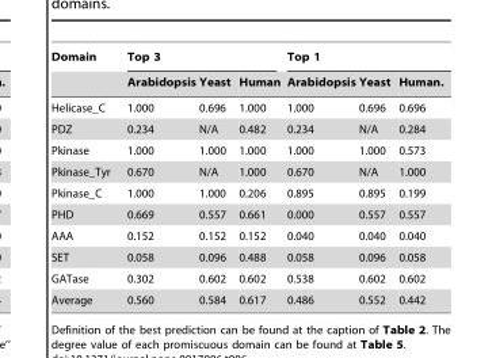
<table><thead><tr><td rowspan="2">Domain</td><td colspan="3">Top 3</td><td colspan="3">Top 1</td></tr><tr><td>Arabidopsis</td><td>Yeast</td><td>Human</td><td>Arabidopsis</td><td>Yeast</td><td>Human.</td></tr></thead><tbody><tr><td>Helicase_C</td><td>1.000</td><td>0.696</td><td>1.000</td><td>1.000</td><td>0.696</td><td>0.696</td></tr><tr><td>PDZ</td><td>0.234</td><td>N/A</td><td>0.482</td><td>0.234</td><td>N/A</td><td>0.284</td></tr><tr><td>Pkinase</td><td>1.000</td><td>1.000</td><td>1.000</td><td>1.000</td><td>1.000</td><td>0.573</td></tr><tr><td>Pkinase_Tyr</td><td>0.670</td><td>N/A</td><td>1.000</td><td>0.670</td><td>N/A</td><td>1.000</td></tr><tr><td>Pkinase_C</td><td>1.000</td><td>1.000</td><td>0.206</td><td>0.895</td><td>0.895</td><td>0.199</td></tr><tr><td>PHD</td><td>0.669</td><td>0.557</td><td>0.661</td><td>0.000</td><td>0.557</td><td>0.557</td></tr><tr><td>AAA</td><td>0.152</td><td>0.152</td><td>0.152</td><td>0.040</td><td>0.040</td><td>0.040</td></tr><tr><td>SET</td><td>0.058</td><td>0.096</td><td>0.488</td><td>0.058</td><td>0.096</td><td>0.058</td></tr><tr><td>GATase</td><td>0.302</td><td>0.602</td><td>0.602</td><td>0.538</td><td>0.602</td><td>0.602</td></tr><tr><td>Average</td><td>0.560</td><td>0.584</td><td>0.617</td><td>0.486</td><td>0.552</td><td>0.442</td></tr></tbody></table>